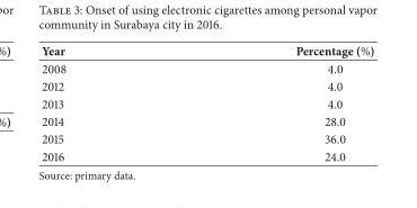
<table><thead><tr><td>Year</td><td>Percentage (%)</td></tr></thead><tbody><tr><td>2008</td><td>4.0</td></tr><tr><td>2012</td><td>4.0</td></tr><tr><td>2013</td><td>4.0</td></tr><tr><td>2014</td><td>28.0</td></tr><tr><td>2015</td><td>36.0</td></tr><tr><td>2016</td><td>24.0</td></tr></tbody></table>